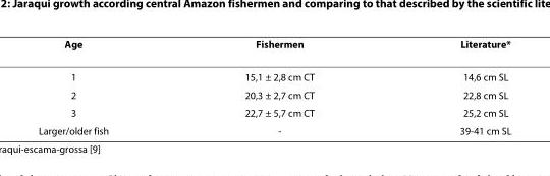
<table><thead><tr><td>Age</td><td>Fishermen</td><td>Literature*</td></tr></thead><tbody><tr><td>1</td><td>15,1 ± 2,8 cm CT</td><td>14,6 cm SL</td></tr><tr><td>2</td><td>20,3 ± 2,7 cm CT</td><td>22,8 cm SL</td></tr><tr><td>3</td><td>22,7 ± 5,7 cm CT</td><td>25,2 cm SL</td></tr><tr><td>Larger/older fish</td><td>-</td><td>39-41 cm SL</td></tr></tbody></table>